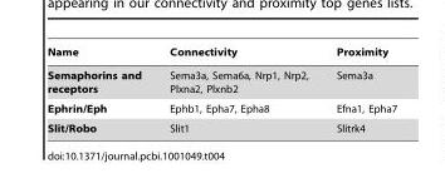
<table><thead><tr><td>Name</td><td>Connectivity</td><td>Proximity</td></tr></thead><tbody><tr><td>Semaphorins and receptors</td><td>Sema3a, Sema6a, Nrp1, Nrp2, Plxna2, Plxnb2</td><td>Sema3a</td></tr><tr><td>Ephrin/Eph</td><td>Ephb1, Epha7, Epha8</td><td>Efna1, Epha7</td></tr><tr><td>Slit/Robo</td><td>Slit1</td><td>Slitrk4</td></tr></tbody></table>